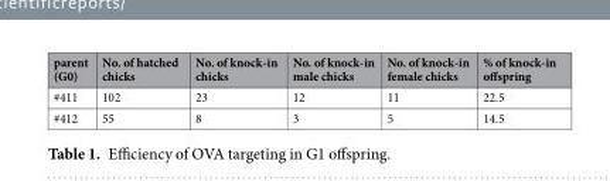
<table><thead><tr><td>parent (G0)</td><td>No. of hatched chicks</td><td>No. of knock-in chicks</td><td>No. of knock-in male chicks</td><td>No. of knock-in female chicks</td><td>% of knock-in offspring</td></tr></thead><tbody><tr><td>#411</td><td>102</td><td>23</td><td>12</td><td>11</td><td>22.5</td></tr><tr><td>#412</td><td>55</td><td>8</td><td>3</td><td>5</td><td>14.5</td></tr></tbody></table>